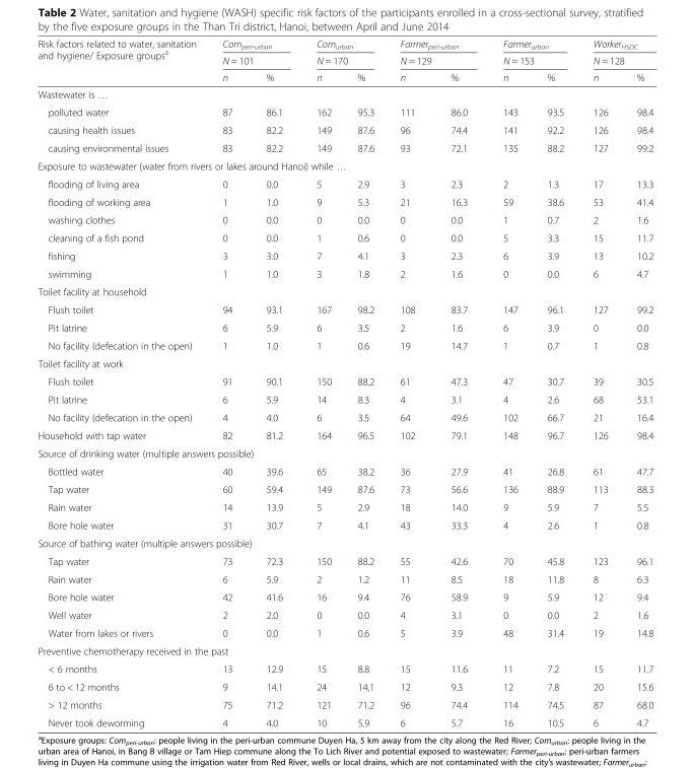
<table><thead><tr><td rowspan="3">Risk factors related to water, sanitation and hygiene/ Exposure groups<sup>a</sup></td><td rowspan="2" colspan="2">Com<sub>peri-urban</sub> N = 101</td><td rowspan="2" colspan="2">Com<sub>urban</sub> N = 170</td><td rowspan="2" colspan="2">Farmer<sub>peri-urban</sub> N = 129</td><td rowspan="2" colspan="2">Farmer<sub>urban</sub> N = 153</td><td rowspan="2" colspan="2">Worker<sub>HSDC</sub> N = 128</td></tr><tr></tr><tr><td>n</td><td>%</td><td>n</td><td>%</td><td>n</td><td>%</td><td>n</td><td>%</td><td>n</td><td>%</td></tr></thead><tbody><tr><td colspan="11">Wastewater is …</td></tr><tr><td>polluted water</td><td>87</td><td>86.1</td><td>162</td><td>95.3</td><td>111</td><td>86.0</td><td>143</td><td>93.5</td><td>126</td><td>98.4</td></tr><tr><td>causing health issues</td><td>83</td><td>82.2</td><td>149</td><td>87.6</td><td>96</td><td>74.4</td><td>141</td><td>92.2</td><td>126</td><td>98.4</td></tr><tr><td>causing environmental issues</td><td>83</td><td>82.2</td><td>149</td><td>87.6</td><td>93</td><td>72.1</td><td>135</td><td>88.2</td><td>127</td><td>99.2</td></tr><tr><td colspan="11">Exposure to wastewater (water from rivers or lakes around Hanoi) while …</td></tr><tr><td>flooding of living area</td><td>0</td><td>0.0</td><td>5</td><td>2.9</td><td>3</td><td>2.3</td><td>2</td><td>1.3</td><td>17</td><td>13.3</td></tr><tr><td>flooding of working area</td><td>1</td><td>1.0</td><td>9</td><td>5.3</td><td>21</td><td>16.3</td><td>59</td><td>38.6</td><td>53</td><td>41.4</td></tr><tr><td>washing clothes</td><td>0</td><td>0.0</td><td>0</td><td>0.0</td><td>0</td><td>0.0</td><td>1</td><td>0.7</td><td>2</td><td>1.6</td></tr><tr><td>cleaning of a fish pond</td><td>0</td><td>0.0</td><td>1</td><td>0.6</td><td>0</td><td>0.0</td><td>5</td><td>3.3</td><td>15</td><td>11.7</td></tr><tr><td>fishing</td><td>3</td><td>3.0</td><td>7</td><td>4.1</td><td>3</td><td>2.3</td><td>6</td><td>3.9</td><td>13</td><td>10.2</td></tr><tr><td>swimming</td><td>1</td><td>1.0</td><td>3</td><td>1.8</td><td>2</td><td>1.6</td><td>0</td><td>0.0</td><td>6</td><td>4.7</td></tr><tr><td colspan="11">Toilet facility at household</td></tr><tr><td>Flush toilet</td><td>94</td><td>93.1</td><td>167</td><td>98.2</td><td>108</td><td>83.7</td><td>147</td><td>96.1</td><td>127</td><td>99.2</td></tr><tr><td>Pit latrine</td><td>6</td><td>5.9</td><td>6</td><td>3.5</td><td>2</td><td>1.6</td><td>6</td><td>3.9</td><td>0</td><td>0.0</td></tr><tr><td>No facility (defecation in the open)</td><td>1</td><td>1.0</td><td>1</td><td>0.6</td><td>19</td><td>14.7</td><td>1</td><td>0.7</td><td>1</td><td>0.8</td></tr><tr><td colspan="11">Toilet facility at work</td></tr><tr><td>Flush toilet</td><td>91</td><td>90.1</td><td>150</td><td>88.2</td><td>61</td><td>47.3</td><td>47</td><td>30.7</td><td>39</td><td>30.5</td></tr><tr><td>Pit latrine</td><td>6</td><td>5.9</td><td>14</td><td>8.3</td><td>4</td><td>3.1</td><td>4</td><td>2.6</td><td>68</td><td>53.1</td></tr><tr><td>No facility (defecation in the open)</td><td>4</td><td>4.0</td><td>6</td><td>3.5</td><td>64</td><td>49.6</td><td>102</td><td>66.7</td><td>21</td><td>16.4</td></tr><tr><td>Household with tap water</td><td>82</td><td>81.2</td><td>164</td><td>96.5</td><td>102</td><td>79.1</td><td>148</td><td>96.7</td><td>126</td><td>98.4</td></tr><tr><td colspan="11">Source of drinking water (multiple answers possible)</td></tr><tr><td>Bottled water</td><td>40</td><td>39.6</td><td>65</td><td>38.2</td><td>36</td><td>27.9</td><td>41</td><td>26.8</td><td>61</td><td>47.7</td></tr><tr><td>Tap water</td><td>60</td><td>59.4</td><td>149</td><td>87.6</td><td>73</td><td>56.6</td><td>136</td><td>88.9</td><td>113</td><td>88.3</td></tr><tr><td>Rain water</td><td>14</td><td>13.9</td><td>5</td><td>2.9</td><td>18</td><td>14.0</td><td>9</td><td>5.9</td><td>7</td><td>5.5</td></tr><tr><td>Bore hole water</td><td>31</td><td>30.7</td><td>7</td><td>4.1</td><td>43</td><td>33.3</td><td>4</td><td>2.6</td><td>1</td><td>0.8</td></tr><tr><td colspan="11">Source of bathing water (multiple answers possible)</td></tr><tr><td>Tap water</td><td>73</td><td>72.3</td><td>150</td><td>88.2</td><td>55</td><td>42.6</td><td>70</td><td>45.8</td><td>123</td><td>96.1</td></tr><tr><td>Rain water</td><td>6</td><td>5.9</td><td>2</td><td>1.2</td><td>11</td><td>8.5</td><td>18</td><td>11.8</td><td>8</td><td>6.3</td></tr><tr><td>Bore hole water</td><td>42</td><td>41.6</td><td>16</td><td>9.4</td><td>76</td><td>58.9</td><td>9</td><td>5.9</td><td>12</td><td>9.4</td></tr><tr><td>Well water</td><td>2</td><td>2.0</td><td>0</td><td>0.0</td><td>4</td><td>3.1</td><td>0</td><td>0.0</td><td>2</td><td>1.6</td></tr><tr><td>Water from lakes or rivers</td><td>0</td><td>0.0</td><td>1</td><td>0.6</td><td>5</td><td>3.9</td><td>48</td><td>31.4</td><td>19</td><td>14.8</td></tr><tr><td colspan="11">Preventive chemotherapy received in the past</td></tr><tr><td>&lt; 6 months</td><td>13</td><td>12.9</td><td>15</td><td>8.8</td><td>15</td><td>11.6</td><td>11</td><td>7.2</td><td>15</td><td>11.7</td></tr><tr><td>6 to &lt; 12 months</td><td>9</td><td>14.1</td><td>24</td><td>14,1</td><td>12</td><td>9.3</td><td>12</td><td>7.8</td><td>20</td><td>15.6</td></tr><tr><td>&gt; 12 months</td><td>75</td><td>71.2</td><td>121</td><td>71.2</td><td>96</td><td>74.4</td><td>114</td><td>74.5</td><td>87</td><td>68.0</td></tr><tr><td>Never took deworming</td><td>4</td><td>4.0</td><td>10</td><td>5.9</td><td>6</td><td>5.7</td><td>16</td><td>10.5</td><td>6</td><td>4.7</td></tr></tbody></table>